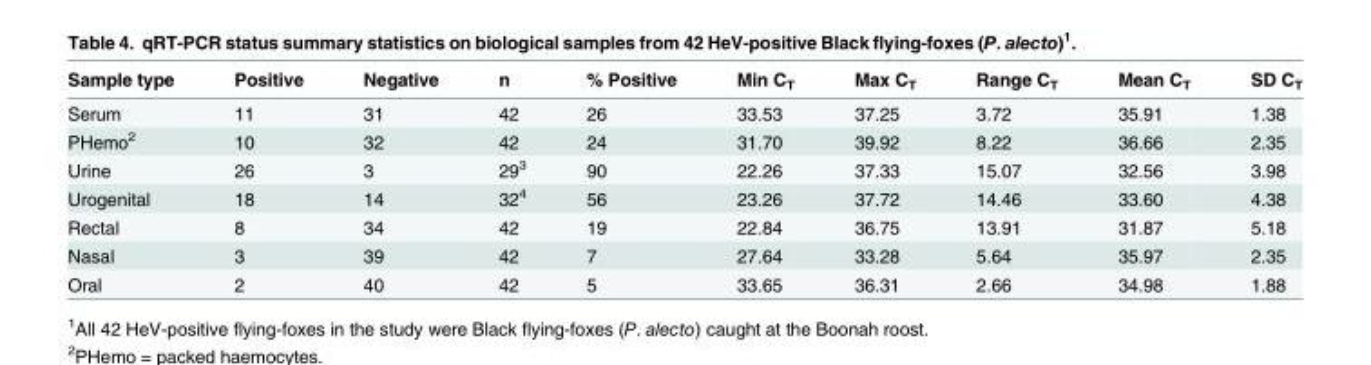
<table><thead><tr><td>Sample type</td><td>Positive</td><td>Negative</td><td>n</td><td>% Positive</td><td>Min C<sub>T</sub></td><td>Max C<sub>T</sub></td><td>Range C<sub>T</sub></td><td>Mean C<sub>T</sub></td><td>SD C<sub>T</sub></td></tr></thead><tbody><tr><td>Serum</td><td>11</td><td>31</td><td>42</td><td>26</td><td>33.53</td><td>37.25</td><td>3.72</td><td>35.91</td><td>1.38</td></tr><tr><td>PHemo<sup>2</sup></td><td>10</td><td>32</td><td>42</td><td>24</td><td>31.70</td><td>39.92</td><td>8.22</td><td>36.66</td><td>2.35</td></tr><tr><td>Urine</td><td>26</td><td>3</td><td>29<sup>3</sup></td><td>90</td><td>22.26</td><td>37.33</td><td>15.07</td><td>32.56</td><td>3.98</td></tr><tr><td>Urogenital</td><td>18</td><td>14</td><td>32<sup>4</sup></td><td>56</td><td>23.26</td><td>37.72</td><td>14.46</td><td>33.60</td><td>4.38</td></tr><tr><td>Rectal</td><td>8</td><td>34</td><td>42</td><td>19</td><td>22.84</td><td>36.75</td><td>13.91</td><td>31.87</td><td>5.18</td></tr><tr><td>Nasal</td><td>3</td><td>39</td><td>42</td><td>7</td><td>27.64</td><td>33.28</td><td>5.64</td><td>35.97</td><td>2.35</td></tr><tr><td>Oral</td><td>2</td><td>40</td><td>42</td><td>5</td><td>33.65</td><td>36.31</td><td>2.66</td><td>34.98</td><td>1.88</td></tr></tbody></table>